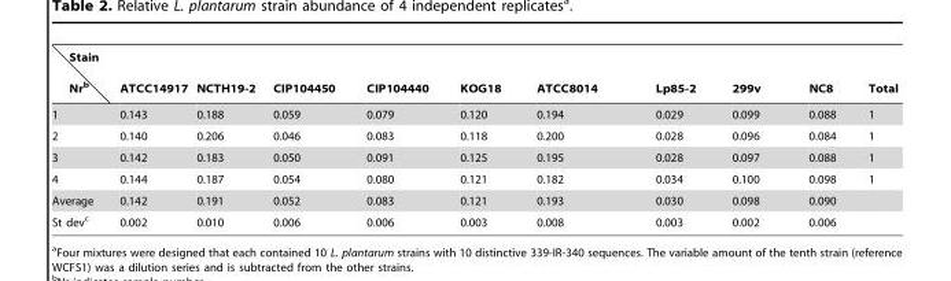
<table><thead><tr><td>Stain Nr<sup>b</sup></td><td>ATCC14917</td><td>NCTH19-2</td><td>CIP104450</td><td>CIP104440</td><td>KOG18</td><td>ATCC8014</td><td>Lp85-2</td><td>299v</td><td>NC8</td><td>Total</td></tr></thead><tbody><tr><td>1</td><td>0.143</td><td>0.188</td><td>0.059</td><td>0.079</td><td>0.120</td><td>0.194</td><td>0.029</td><td>0.099</td><td>0.088</td><td>1</td></tr><tr><td>2</td><td>0.140</td><td>0.206</td><td>0.046</td><td>0.083</td><td>0.118</td><td>0.200</td><td>0.028</td><td>0.096</td><td>0.084</td><td>1</td></tr><tr><td>3</td><td>0.142</td><td>0.183</td><td>0.050</td><td>0.091</td><td>0.125</td><td>0.195</td><td>0.028</td><td>0.097</td><td>0.088</td><td>1</td></tr><tr><td>4</td><td>0.144</td><td>0.187</td><td>0.054</td><td>0.080</td><td>0.121</td><td>0.182</td><td>0.034</td><td>0.100</td><td>0.098</td><td>1</td></tr><tr><td>Average</td><td>0.142</td><td>0.191</td><td>0.052</td><td>0.083</td><td>0.121</td><td>0.193</td><td>0.030</td><td>0.098</td><td>0.090</td><td></td></tr><tr><td>St dev<sup>c</sup></td><td>0.002</td><td>0.010</td><td>0.006</td><td>0.006</td><td>0.003</td><td>0.008</td><td>0.003</td><td>0.002</td><td>0.006</td><td></td></tr></tbody></table>